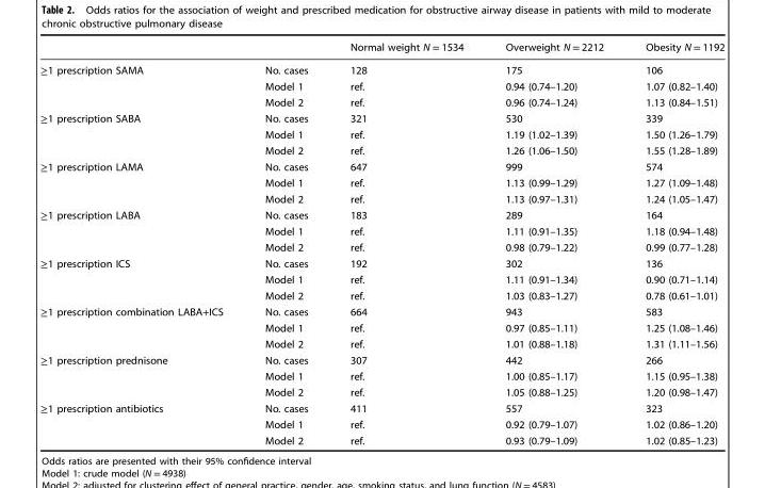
<table><thead><tr><td></td><td></td><td>Normal weight N = 1534</td><td>Overweight N = 2212</td><td>Obesity N = 1192</td></tr></thead><tbody><tr><td rowspan="3">≥1 prescription SAMA</td><td>No. cases</td><td>128</td><td>175</td><td>106</td></tr><tr><td>Model 1</td><td>ref.</td><td>0.94 (0.74–1.20)</td><td>1.07 (0.82–1.40)</td></tr><tr><td>Model 2</td><td>ref.</td><td>0.96 (0.74–1.24)</td><td>1.13 (0.84–1.51)</td></tr><tr><td rowspan="3">≥1 prescription SABA</td><td>No. cases</td><td>321</td><td>530</td><td>339</td></tr><tr><td>Model 1</td><td>ref.</td><td>1.19 (1.02–1.39)</td><td>1.50 (1.26–1.79)</td></tr><tr><td>Model 2</td><td>ref.</td><td>1.26 (1.06–1.50)</td><td>1.55 (1.28–1.89)</td></tr><tr><td rowspan="3">≥1 prescription LAMA</td><td>No. cases</td><td>647</td><td>999</td><td>574</td></tr><tr><td>Model 1</td><td>ref.</td><td>1.13 (0.99–1.29)</td><td>1.27 (1.09–1.48)</td></tr><tr><td>Model 2</td><td>ref.</td><td>1.13 (0.97–1.31)</td><td>1.24 (1.05–1.47)</td></tr><tr><td rowspan="3">≥1 prescription LABA</td><td>No. cases</td><td>183</td><td>289</td><td>164</td></tr><tr><td>Model 1</td><td>ref.</td><td>1.11 (0.91–1.35)</td><td>1.18 (0.94–1.48)</td></tr><tr><td>Model 2</td><td>ref.</td><td>0.98 (0.79–1.22)</td><td>0.99 (0.77–1.28)</td></tr><tr><td rowspan="3">≥1 prescription ICS</td><td>No. cases</td><td>192</td><td>302</td><td>136</td></tr><tr><td>Model 1</td><td>ref.</td><td>1.11 (0.91–1.34)</td><td>0.90 (0.71–1.14)</td></tr><tr><td>Model 2</td><td>ref.</td><td>1.03 (0.83–1.27)</td><td>0.78 (0.61–1.01)</td></tr><tr><td rowspan="3">≥1 prescription combination LABA+ICS</td><td>No. cases</td><td>664</td><td>943</td><td>583</td></tr><tr><td>Model 1</td><td>ref.</td><td>0.97 (0.85–1.11)</td><td>1.25 (1.08–1.46)</td></tr><tr><td>Model 2</td><td>ref.</td><td>1.01 (0.88–1.18)</td><td>1.31 (1.11–1.56)</td></tr><tr><td rowspan="3">≥1 prescription prednisone</td><td>No. cases</td><td>307</td><td>442</td><td>266</td></tr><tr><td>Model 1</td><td>ref.</td><td>1.00 (0.85–1.17)</td><td>1.15 (0.95–1.38)</td></tr><tr><td>Model 2</td><td>ref.</td><td>1.05 (0.88–1.25)</td><td>1.20 (0.98–1.47)</td></tr><tr><td rowspan="3">≥1 prescription antibiotics</td><td>No. cases</td><td>411</td><td>557</td><td>323</td></tr><tr><td>Model 1</td><td>ref.</td><td>0.92 (0.79–1.07)</td><td>1.02 (0.86–1.20)</td></tr><tr><td>Model 2</td><td>ref.</td><td>0.93 (0.79–1.09)</td><td>1.02 (0.85–1.23)</td></tr></tbody></table>